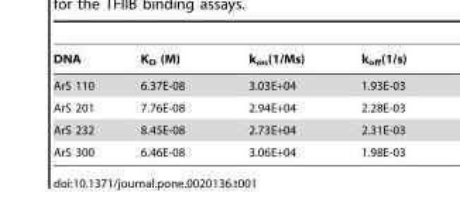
<table><thead><tr><td>DNA</td><td>K<sub>D</sub> (M)</td><td>k<sub>on</sub>(1/Ms)</td><td>k<sub>off</sub>(1/s)</td></tr></thead><tbody><tr><td>ArS 110</td><td>6.37E-08</td><td>3.03E+04</td><td>1.93E-03</td></tr><tr><td>ArS 201</td><td>7.76E-08</td><td>2.94E+04</td><td>2.28E-03</td></tr><tr><td>ArS 232</td><td>8.45E-08</td><td>2.73E+04</td><td>2.31E-03</td></tr><tr><td>ArS 300</td><td>6.46E-08</td><td>3.06E+04</td><td>1.98E-03</td></tr></tbody></table>